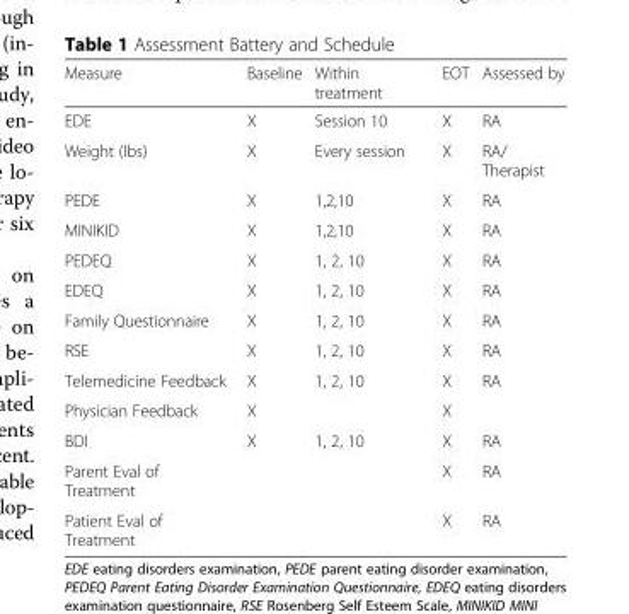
<table><thead><tr><td>Measure</td><td>Baseline</td><td>Within treatment</td><td>EOT</td><td>Assessed by</td></tr></thead><tbody><tr><td>EDE</td><td>X</td><td>Session 10</td><td>X</td><td>RA</td></tr><tr><td>Weight (lbs)</td><td>X</td><td>Every session</td><td>X</td><td>RA/ Therapist</td></tr><tr><td>PEDE</td><td>X</td><td>1,2,10</td><td>X</td><td>RA</td></tr><tr><td>MINIKID</td><td>X</td><td>1,2,10</td><td>X</td><td>RA</td></tr><tr><td>PEDEQ</td><td>X</td><td>1, 2, 10</td><td>X</td><td>RA</td></tr><tr><td>EDEQ</td><td>X</td><td>1, 2, 10</td><td>X</td><td>RA</td></tr><tr><td>Family Questionnaire</td><td>X</td><td>1, 2, 10</td><td>X</td><td>RA</td></tr><tr><td>RSE</td><td>X</td><td>1, 2, 10</td><td>X</td><td>RA</td></tr><tr><td>Telemedicine Feedback</td><td>X</td><td>1, 2, 10</td><td>X</td><td>RA</td></tr><tr><td>Physician Feedback</td><td>X</td><td></td><td>X</td><td></td></tr><tr><td>BDI</td><td>X</td><td>1, 2, 10</td><td>X</td><td>RA</td></tr><tr><td>Parent Eval of Treatment</td><td></td><td></td><td>X</td><td>RA</td></tr><tr><td>Patient Eval of Treatment</td><td></td><td></td><td>X</td><td>RA</td></tr></tbody></table>